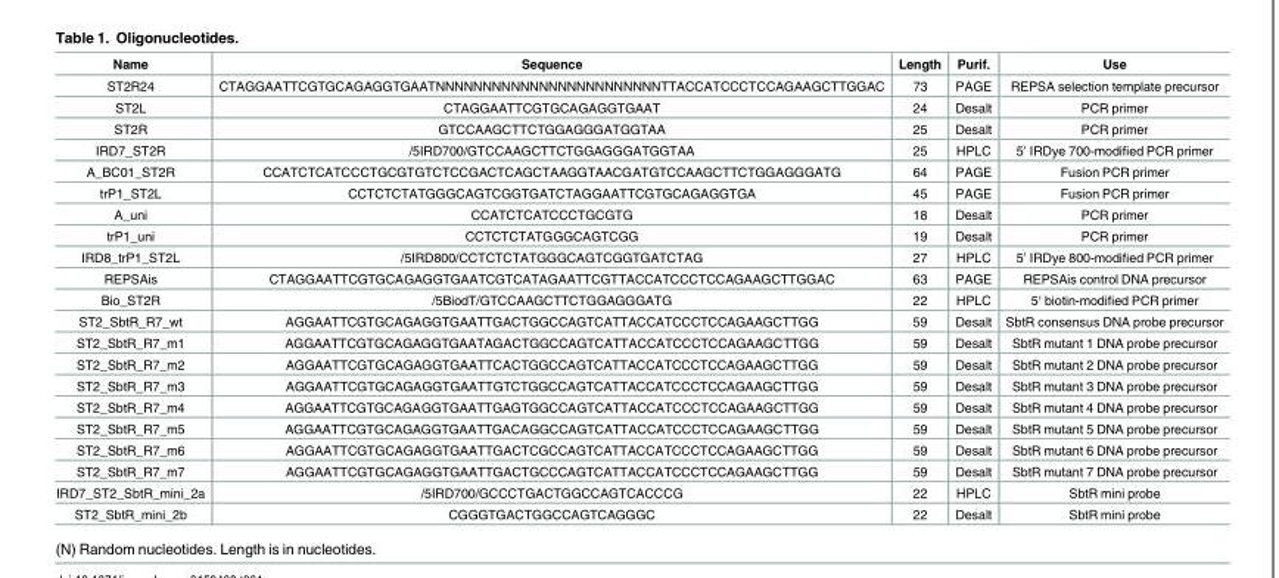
<table><thead><tr><td>Name</td><td>Sequence</td><td>Length</td><td>Purif.</td><td>Use</td></tr></thead><tbody><tr><td>ST2R24</td><td>CTAGGAATTCGTGCAGAGGTGAATNNNNNNNNNNNNNNNNNNNNNNNNTTACCATCCCTCCAGAAGCTTGGAC</td><td>73</td><td>PAGE</td><td>REPSA selection template precursor</td></tr><tr><td>ST2L</td><td>CTAGGAATTCGTGCAGAGGTGAAT</td><td>24</td><td>Desalt</td><td>PCR primer</td></tr><tr><td>ST2R</td><td>GTCCAAGCTTCTGGAGGGATGGTAA</td><td>25</td><td>Desalt</td><td>PCR primer</td></tr><tr><td>IRD7_ST2R</td><td>/5IRD700/GTCCAAGCTTCTGGAGGGATGGTAA</td><td>25</td><td>HPLC</td><td>5′ IRDye 700-modified PCR primer</td></tr><tr><td>A_BC01_ST2R</td><td>CCATCTCATCCCTGCGTGTCTCCGACTCAGCTAAGGTAACGATGTCCAAGCTTCTGGAGGGATG</td><td>64</td><td>PAGE</td><td>Fusion PCR primer</td></tr><tr><td>trP1_ST2L</td><td>CCTCTCTATGGGCAGTCGGTGATCTAGGAATTCGTGCAGAGGTGA</td><td>45</td><td>PAGE</td><td>Fusion PCR primer</td></tr><tr><td>A_uni</td><td>CCATCTCATCCCTGCGTG</td><td>18</td><td>Desalt</td><td>PCR primer</td></tr><tr><td>trP1_uni</td><td>CCTCTCTATGGGCAGTCGG</td><td>19</td><td>Desalt</td><td>PCR primer</td></tr><tr><td>IRD8_trP1_ST2L</td><td>/5IRD800/CCTCTCTATGGGCAGTCGGTGATCTAG</td><td>27</td><td>HPLC</td><td>5′ IRDye 800-modified PCR primer</td></tr><tr><td>REPSAis</td><td>CTAGGAATTCGTGCAGAGGTGAATCGTCATAGAATTCGTTACCATCCCTCCAGAAGCTTGGAC</td><td>63</td><td>PAGE</td><td>REPSAis control DNA precursor</td></tr><tr><td>Bio_ST2R</td><td>/5BiodT/GTCCAAGCTTCTGGAGGGATG</td><td>22</td><td>HPLC</td><td>5′ biotin-modified PCR primer</td></tr><tr><td>ST2_SbtR_R7_wt</td><td>AGGAATTCGTGCAGAGGTGAATTGACTGGCCAGTCATTACCATCCCTCCAGAAGCTTGG</td><td>59</td><td>Desalt</td><td>SbtR consensus DNA probe precursor</td></tr><tr><td>ST2_SbtR_R7_m1</td><td>AGGAATTCGTGCAGAGGTGAATAGACTGGCCAGTCATTACCATCCCTCCAGAAGCTTGG</td><td>59</td><td>Desalt</td><td>SbtR mutant 1 DNA probe precursor</td></tr><tr><td>ST2_SbtR_R7_m2</td><td>AGGAATTCGTGCAGAGGTGAATTCACTGGCCAGTCATTACCATCCCTCCAGAAGCTTGG</td><td>59</td><td>Desalt</td><td>SbtR mutant 2 DNA probe precursor</td></tr><tr><td>ST2_SbtR_R7_m3</td><td>AGGAATTCGTGCAGAGGTGAATTGTCTGGCCAGTCATTACCATCCCTCCAGAAGCTTGG</td><td>59</td><td>Desalt</td><td>SbtR mutant 3 DNA probe precursor</td></tr><tr><td>ST2_SbtR_R7_m4</td><td>AGGAATTCGTGCAGAGGTGAATTGAGTGGCCAGTCATTACCATCCCTCCAGAAGCTTGG</td><td>59</td><td>Desalt</td><td>SbtR mutant 4 DNA probe precursor</td></tr><tr><td>ST2_SbtR_R7_m5</td><td>AGGAATTCGTGCAGAGGTGAATTGACAGGCCAGTCATTACCATCCCTCCAGAAGCTTGG</td><td>59</td><td>Desalt</td><td>SbtR mutant 5 DNA probe precursor</td></tr><tr><td>ST2_SbtR_R7_m6</td><td>AGGAATTCGTGCAGAGGTGAATTGACTCGCCAGTCATTACCATCCCTCCAGAAGCTTGG</td><td>59</td><td>Desalt</td><td>SbtR mutant 6 DNA probe precursor</td></tr><tr><td>ST2_SbtR_R7_m7</td><td>AGGAATTCGTGCAGAGGTGAATTGACTGCCCAGTCATTACCATCCCTCCAGAAGCTTGG</td><td>59</td><td>Desalt</td><td>SbtR mutant 7 DNA probe precursor</td></tr><tr><td>IRD7_ST2_SbtR_mini_2a</td><td>/5IRD700/GCCCTGACTGGCCAGTCACCCG</td><td>22</td><td>HPLC</td><td>SbtR mini probe</td></tr><tr><td>ST2_SbtR_mini_2b</td><td>CGGGTGACTGGCCAGTCAGGGC</td><td>22</td><td>Desalt</td><td>SbtR mini probe</td></tr></tbody></table>